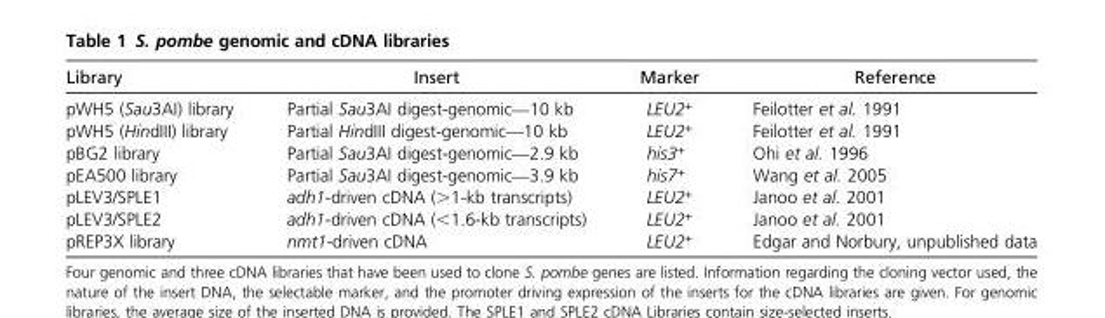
<table><thead><tr><td>Library</td><td>Insert</td><td>Marker</td><td>Reference</td></tr></thead><tbody><tr><td>pWH5 (Sau3AI) library</td><td>Partial Sau3AI digest-genomic—10 kb</td><td>LEU2<sup>+</sup></td><td>Feilotter et al. 1991</td></tr><tr><td>pWH5 (HindIII) library</td><td>Partial HindIII digest-genomic—10 kb</td><td>LEU2<sup>+</sup></td><td>Feilotter et al. 1991</td></tr><tr><td>pBG2 library</td><td>Partial Sau3AI digest-genomic—2.9 kb</td><td>his3<sup>+</sup></td><td>Ohi et al. 1996</td></tr><tr><td>pEA500 library</td><td>Partial Sau3AI digest-genomic—3.9 kb</td><td>his7<sup>+</sup></td><td>Wang et al. 2005</td></tr><tr><td>pLEV3/SPLE1</td><td>adh1-driven cDNA (&gt;1-kb transcripts)</td><td>LEU2<sup>+</sup></td><td>Janoo et al. 2001</td></tr><tr><td>pLEV3/SPLE2</td><td>adh1-driven cDNA (&lt;1.6-kb transcripts)</td><td>LEU2<sup>+</sup></td><td>Janoo et al. 2001</td></tr><tr><td>pREP3X library</td><td>nmt1-driven cDNA</td><td>LEU2<sup>+</sup></td><td>Edgar and Norbury, unpublished data</td></tr></tbody></table>